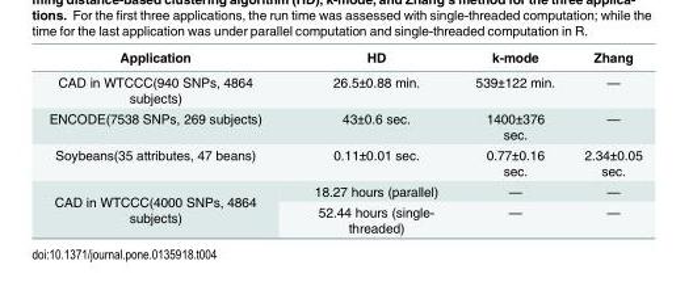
<table><thead><tr><td>Application</td><td>HD</td><td>k-mode</td><td>Zhang</td></tr></thead><tbody><tr><td>CAD in WTCCC(940 SNPs, 4864 subjects)</td><td>26.5±0.88 min.</td><td>539±122 min.</td><td>—</td></tr><tr><td>ENCODE(7538 SNPs, 269 subjects)</td><td>43±0.6 sec.</td><td>1400±376 sec.</td><td>—</td></tr><tr><td>Soybeans(35 attributes, 47 beans)</td><td>0.11±0.01 sec.</td><td>0.77±0.16 sec.</td><td>2.34±0.05 sec.</td></tr><tr><td rowspan="2">CAD in WTCCC(4000 SNPs, 4864 subjects)</td><td>18.27 hours (parallel)</td><td>—</td><td>—</td></tr><tr><td>52.44 hours (single- threaded)</td><td>—</td><td>—</td></tr></tbody></table>